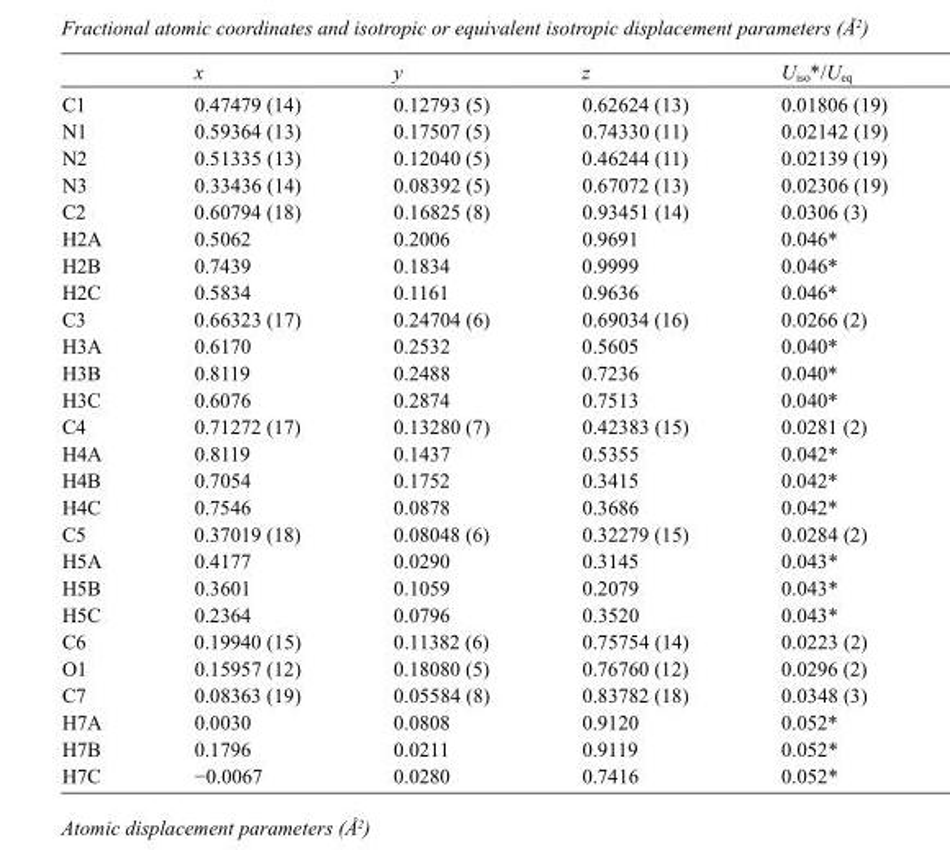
<table><thead><tr><td></td><td>x</td><td>y</td><td>z</td><td>U<sub>iso</sub>*/U<sub>eq</sub></td></tr></thead><tbody><tr><td>C1</td><td>0.47479 (14)</td><td>0.12793 (5)</td><td>0.62624 (13)</td><td>0.01806 (19)</td></tr><tr><td>N1</td><td>0.59364 (13)</td><td>0.17507 (5)</td><td>0.74330 (11)</td><td>0.02142 (19)</td></tr><tr><td>N2</td><td>0.51335 (13)</td><td>0.12040 (5)</td><td>0.46244 (11)</td><td>0.02139 (19)</td></tr><tr><td>N3</td><td>0.33436 (14)</td><td>0.08392 (5)</td><td>0.67072 (13)</td><td>0.02306 (19)</td></tr><tr><td>C2</td><td>0.60794 (18)</td><td>0.16825 (8)</td><td>0.93451 (14)</td><td>0.0306 (3)</td></tr><tr><td>H2A</td><td>0.5062</td><td>0.2006</td><td>0.9691</td><td>0.046*</td></tr><tr><td>H2B</td><td>0.7439</td><td>0.1834</td><td>0.9999</td><td>0.046*</td></tr><tr><td>H2C</td><td>0.5834</td><td>0.1161</td><td>0.9636</td><td>0.046*</td></tr><tr><td>C3</td><td>0.66323 (17)</td><td>0.24704 (6)</td><td>0.69034 (16)</td><td>0.0266 (2)</td></tr><tr><td>H3A</td><td>0.6170</td><td>0.2532</td><td>0.5605</td><td>0.040*</td></tr><tr><td>H3B</td><td>0.8119</td><td>0.2488</td><td>0.7236</td><td>0.040*</td></tr><tr><td>H3C</td><td>0.6076</td><td>0.2874</td><td>0.7513</td><td>0.040*</td></tr><tr><td>C4</td><td>0.71272 (17)</td><td>0.13280 (7)</td><td>0.42383 (15)</td><td>0.0281 (2)</td></tr><tr><td>H4A</td><td>0.8119</td><td>0.1437</td><td>0.5355</td><td>0.042*</td></tr><tr><td>H4B</td><td>0.7054</td><td>0.1752</td><td>0.3415</td><td>0.042*</td></tr><tr><td>H4C</td><td>0.7546</td><td>0.0878</td><td>0.3686</td><td>0.042*</td></tr><tr><td>C5</td><td>0.37019 (18)</td><td>0.08048 (6)</td><td>0.32279 (15)</td><td>0.0284 (2)</td></tr><tr><td>H5A</td><td>0.4177</td><td>0.0290</td><td>0.3145</td><td>0.043*</td></tr><tr><td>H5B</td><td>0.3601</td><td>0.1059</td><td>0.2079</td><td>0.043*</td></tr><tr><td>H5C</td><td>0.2364</td><td>0.0796</td><td>0.3520</td><td>0.043*</td></tr><tr><td>C6</td><td>0.19940 (15)</td><td>0.11382 (6)</td><td>0.75754 (14)</td><td>0.0223 (2)</td></tr><tr><td>O1</td><td>0.15957 (12)</td><td>0.18080 (5)</td><td>0.76760 (12)</td><td>0.0296 (2)</td></tr><tr><td>C7</td><td>0.08363 (19)</td><td>0.05584 (8)</td><td>0.83782 (18)</td><td>0.0348 (3)</td></tr><tr><td>H7A</td><td>0.0030</td><td>0.0808</td><td>0.9120</td><td>0.052*</td></tr><tr><td>H7B</td><td>0.1796</td><td>0.0211</td><td>0.9119</td><td>0.052*</td></tr><tr><td>H7C</td><td>−0.0067</td><td>0.0280</td><td>0.7416</td><td>0.052*</td></tr></tbody></table>